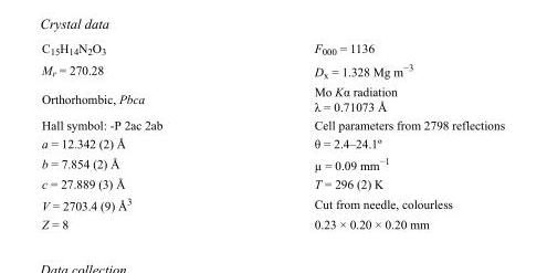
<table><tbody><tr><td>C<sub>15</sub>H<sub>14</sub>N<sub>2</sub>O<sub>3</sub></td><td>F<sub>000</sub> = 1136</td></tr><tr><td>M<sub>r</sub> = 270.28</td><td>D<sub>x</sub> = 1.328 Mg m<sup>−3</sup></td></tr><tr><td>Orthorhombic, Pbca</td><td>Mo Kα radiation λ = 0.71073 Å</td></tr><tr><td>Hall symbol: -P 2ac 2ab</td><td>Cell parameters from 2798 reflections</td></tr><tr><td>a = 12.342 (2) Å</td><td>θ = 2.4–24.1º</td></tr><tr><td>b = 7.854 (2) Å</td><td>µ = 0.09 mm<sup>−1</sup></td></tr><tr><td>c = 27.889 (3) Å</td><td>T = 296 (2) K</td></tr><tr><td>V = 2703.4 (9) Å<sup>3</sup></td><td>Cut from needle, colourless</td></tr><tr><td>Z = 8</td><td>0.23 × 0.20 × 0.20 mm</td></tr></tbody></table>